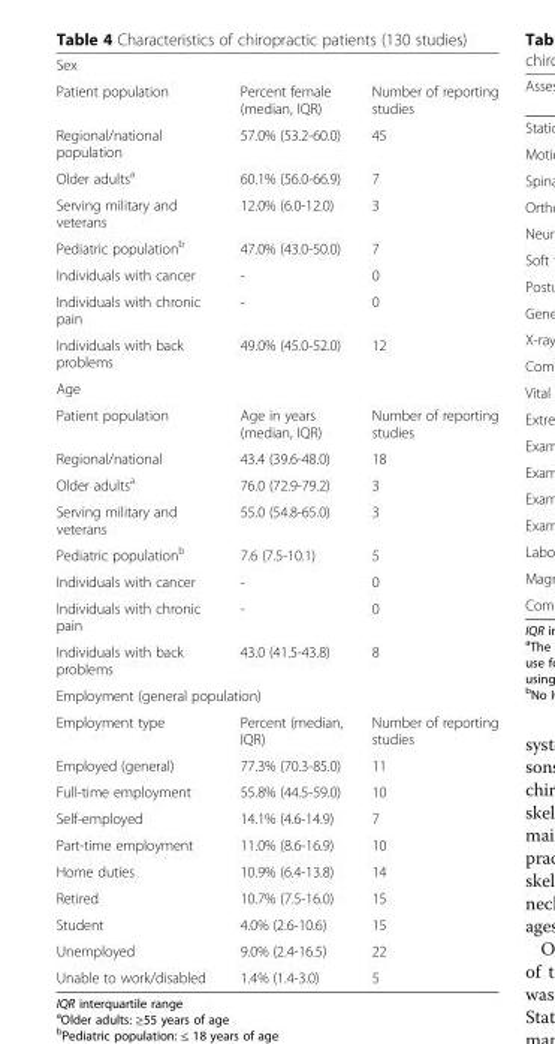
<table><tbody><tr><td colspan="3">Sex</td></tr><tr><td>Patient population</td><td>Percent female (median, IQR)</td><td>Number of reporting studies</td></tr><tr><td>Regional/national population</td><td>57.0% (53.2-60.0)</td><td>45</td></tr><tr><td>Older adults<sup>a</sup></td><td>60.1% (56.0-66.9)</td><td>7</td></tr><tr><td>Serving military and veterans</td><td>12.0% (6.0-12.0)</td><td>3</td></tr><tr><td>Pediatric population<sup>b</sup></td><td>47.0% (43.0-50.0)</td><td>7</td></tr><tr><td>Individuals with cancer</td><td>-</td><td>0</td></tr><tr><td>Individuals with chronic pain</td><td>-</td><td>0</td></tr><tr><td>Individuals with back problems</td><td>49.0% (45.0-52.0)</td><td>12</td></tr><tr><td colspan="3">Age</td></tr><tr><td>Patient population</td><td>Age in years (median, IQR)</td><td>Number of reporting studies</td></tr><tr><td>Regional/national</td><td>43.4 (39.6-48.0)</td><td>18</td></tr><tr><td>Older adults<sup>a</sup></td><td>76.0 (72.9-79.2)</td><td>3</td></tr><tr><td>Serving military and veterans</td><td>55.0 (54.8-65.0)</td><td>3</td></tr><tr><td>Pediatric population<sup>b</sup></td><td>7.6 (7.5-10.1)</td><td>5</td></tr><tr><td>Individuals with cancer</td><td>-</td><td>0</td></tr><tr><td>Individuals with chronic pain</td><td>-</td><td>0</td></tr><tr><td>Individuals with back problems</td><td>43.0 (41.5-43.8)</td><td>8</td></tr><tr><td colspan="3">Employment (general population)</td></tr><tr><td>Employment type</td><td>Percent (median, IQR)</td><td>Number of reporting studies</td></tr><tr><td>Employed (general)</td><td>77.3% (70.3-85.0)</td><td>11</td></tr><tr><td>Full-time employment</td><td>55.8% (44.5-59.0)</td><td>10</td></tr><tr><td>Self-employed</td><td>14.1% (4.6-14.9)</td><td>7</td></tr><tr><td>Part-time employment</td><td>11.0% (8.6-16.9)</td><td>10</td></tr><tr><td>Home duties</td><td>10.9% (6.4-13.8)</td><td>14</td></tr><tr><td>Retired</td><td>10.7% (7.5-16.0)</td><td>15</td></tr><tr><td>Student</td><td>4.0% (2.6-10.6)</td><td>15</td></tr><tr><td>Unemployed</td><td>9.0% (2.4-16.5)</td><td>22</td></tr><tr><td>Unable to work/disabled</td><td>1.4% (1.4-3.0)</td><td>5</td></tr></tbody></table>